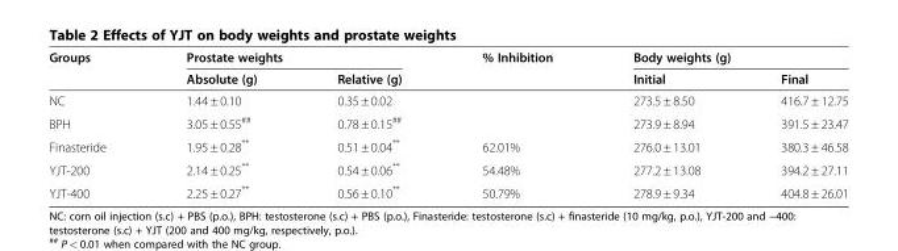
<table><thead><tr><td rowspan="2">Groups</td><td colspan="2">Prostate weights</td><td rowspan="2">% Inhibition</td><td colspan="2">Body weights (g)</td></tr><tr><td>Absolute (g)</td><td>Relative (g)</td><td>Initial</td><td>Final</td></tr></thead><tbody><tr><td>NC</td><td>1.44 ± 0.10</td><td>0.35 ± 0.02</td><td></td><td>273.5 ± 8.50</td><td>416.7 ± 12.75</td></tr><tr><td>BPH</td><td>3.05 ± 0.55<sup>##</sup></td><td>0.78 ± 0.15<sup>##</sup></td><td></td><td>273.9 ± 8.94</td><td>391.5 ± 23.47</td></tr><tr><td>Finasteride</td><td>1.95 ± 0.28**</td><td>0.51 ± 0.04**</td><td>62.01%</td><td>276.0 ± 13.01</td><td>380.3 ± 46.58</td></tr><tr><td>YJT-200</td><td>2.14 ± 0.25**</td><td>0.54 ± 0.06**</td><td>54.48%</td><td>277.2 ± 13.08</td><td>394.2 ± 27.11</td></tr><tr><td>YJT-400</td><td>2.25 ± 0.27**</td><td>0.56 ± 0.10**</td><td>50.79%</td><td>278.9 ± 9.34</td><td>404.8 ± 26.01</td></tr></tbody></table>